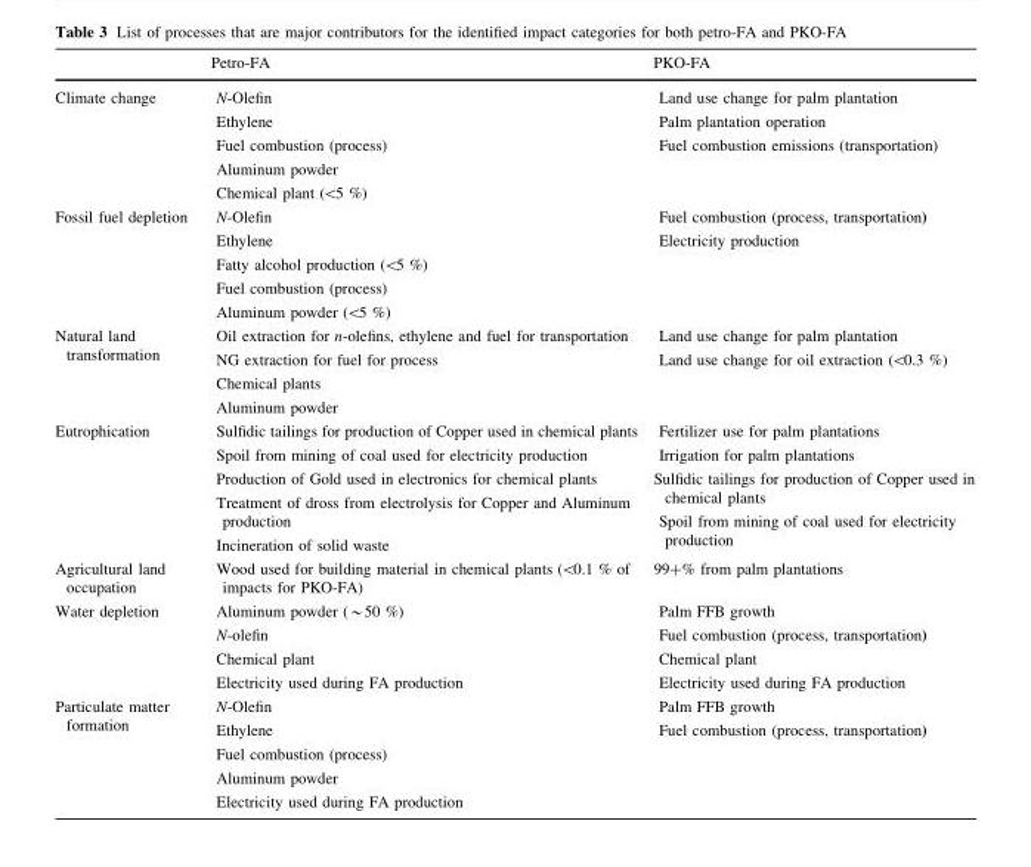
<table><thead><tr><td></td><td>Petro-FA</td><td>PKO-FA</td></tr></thead><tbody><tr><td>Climate change</td><td>N-Olefin Ethylene Fuel combustion (process) Aluminum powder Chemical plant (&lt;5 %)</td><td>Land use change for palm plantation Palm plantation operation Fuel combustion emissions (transportation)</td></tr><tr><td>Fossil fuel depletion</td><td>N-Olefin Ethylene Fatty alcohol production (&lt;5 %) Fuel combustion (process) Aluminum powder (&lt;5 %)</td><td>Fuel combustion (process, transportation) Electricity production</td></tr><tr><td>Natural land transformation</td><td>Oil extraction for n-olefins, ethylene and fuel for transportation NG extraction for fuel for process Chemical plants Aluminum powder</td><td>Land use change for palm plantation Land use change for oil extraction (&lt;0.3 %)</td></tr><tr><td>Eutrophication</td><td>Sulfidic tailings for production of Copper used in chemical plants Spoil from mining of coal used for electricity production Production of Gold used in electronics for chemical plants Treatment of dross from electrolysis for Copper and Aluminum production Incineration of solid waste</td><td>Fertilizer use for palm plantations Irrigation for palm plantations Sulfidic tailings for production of Copper used in chemical plants Spoil from mining of coal used for electricity production</td></tr><tr><td>Agricultural land occupation</td><td>Wood used for building material in chemical plants (&lt;0.1 % of impacts for PKO-FA)</td><td>99+% from palm plantations</td></tr><tr><td>Water depletion</td><td>Aluminum powder (*50 %) N-olefin Chemical plant Electricity used during FA production</td><td>Palm FFB growth Fuel combustion (process, transportation) Chemical plant Electricity used during FA production</td></tr><tr><td>Particulate matter formation</td><td>N-Olefin Ethylene Fuel combustion (process) Aluminum powder Electricity used during FA production</td><td>Palm FFB growth Fuel combustion (process, transportation)</td></tr></tbody></table>